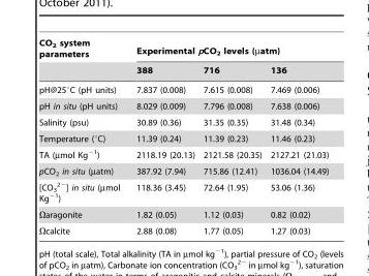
<table><thead><tr><td rowspan="2">CO<sub>2</sub> system parameters</td><td colspan="3">Experimental pCO<sub>2</sub> levels (µatm)</td></tr><tr><td>388</td><td>716</td><td>136</td></tr></thead><tbody><tr><td>pH@25°C (pH units)</td><td>7.837 (0.008)</td><td>7.615 (0.008)</td><td>7.469 (0.006)</td></tr><tr><td>pH in situ (pH units)</td><td>8.029 (0.009)</td><td>7.796 (0.008)</td><td>7.638 (0.006)</td></tr><tr><td>Salinity (psu)</td><td>30.89 (0.36)</td><td>31.35 (0.35)</td><td>31.48 (0.34)</td></tr><tr><td>Temperature (°C)</td><td>11.39 (0.24)</td><td>11.39 (0.23)</td><td>11.46 (0.23)</td></tr><tr><td>TA (µmol Kg<sup>−1</sup>)</td><td>2118.19 (20.13)</td><td>2121.58 (20.35)</td><td>2127.21 (21.03)</td></tr><tr><td>pCO<sub>2</sub> in situ (µatm)</td><td>387.92 (7.94)</td><td>715.86 (12.41)</td><td>1036.04 (14.49)</td></tr><tr><td>[CO<sub>3</sub> <sup>2−</sup>] in situ (µmol Kg<sup>−1</sup>)</td><td>118.36 (3.45)</td><td>72.64 (1.95)</td><td>53.06 (1.36)</td></tr><tr><td>Ωaragonite</td><td>1.82 (0.05)</td><td>1.12 (0.03)</td><td>0.82 (0.02)</td></tr><tr><td>Ωcalcite</td><td>2.88 (0.08)</td><td>1.77 (0.05)</td><td>1.27 (0.03)</td></tr></tbody></table>